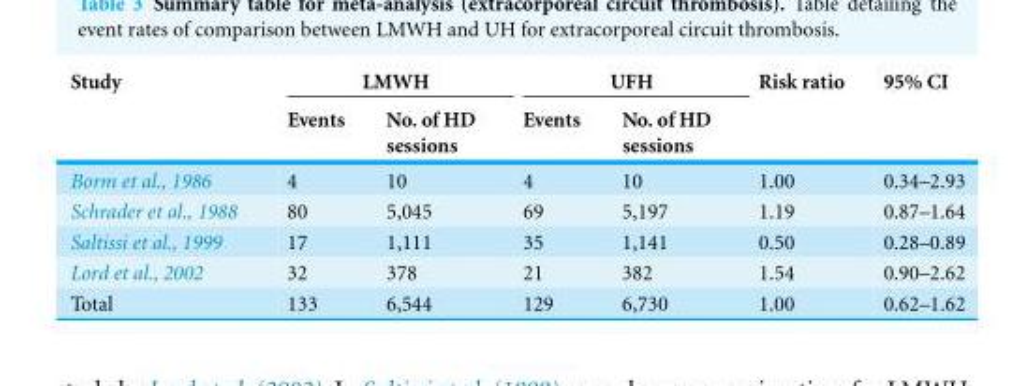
<table><thead><tr><td rowspan="2">Study</td><td colspan="2">LMWH</td><td colspan="2">UFH</td><td rowspan="2">Risk ratio</td><td rowspan="2">95% CI</td></tr><tr><td>Events</td><td>No. of HD sessions</td><td>Events</td><td>No. of HD sessions</td></tr></thead><tbody><tr><td>Borm et al., 1986</td><td>4</td><td>10</td><td>4</td><td>10</td><td>1.00</td><td>0.34–2.93</td></tr><tr><td>Schrader et al., 1988</td><td>80</td><td>5,045</td><td>69</td><td>5,197</td><td>1.19</td><td>0.87–1.64</td></tr><tr><td>Saltissi et al., 1999</td><td>17</td><td>1,111</td><td>35</td><td>1,141</td><td>0.50</td><td>0.28–0.89</td></tr><tr><td>Lord et al., 2002</td><td>32</td><td>378</td><td>21</td><td>382</td><td>1.54</td><td>0.90–2.62</td></tr><tr><td>Total</td><td>133</td><td>6,544</td><td>129</td><td>6,730</td><td>1.00</td><td>0.62–1.62</td></tr></tbody></table>